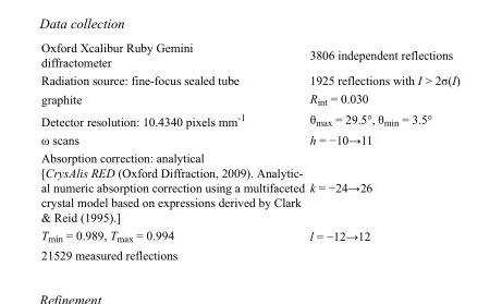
<table><tbody><tr><td>Oxford Xcalibur Ruby Gemini diffractometer</td><td>3806 independent reflections</td></tr><tr><td>Radiation source: fine-focus sealed tube</td><td>1925 reflections with I &gt; 2σ(I)</td></tr><tr><td>graphite</td><td>R<sub>int</sub> = 0.030</td></tr><tr><td>Detector resolution: 10.4340 pixels mm<sup>-1</sup></td><td>θ<sub>max</sub> = 29.5°, θ<sub>min</sub> = 3.5°</td></tr><tr><td>ω scans</td><td>h = −10→11</td></tr><tr><td>Absorption correction: analytical [CrysAlis RED (Oxford Diffraction, 2009). Analytic- al numeric absorption correction using a multifaceted crystal model based on expressions derived by Clark &amp; Reid (1995).]</td><td>k = −24→26</td></tr><tr><td>T<sub>min</sub> = 0.989, T<sub>max</sub> = 0.994</td><td>l = −12→12</td></tr><tr><td>21529 measured reflections</td><td></td></tr></tbody></table>